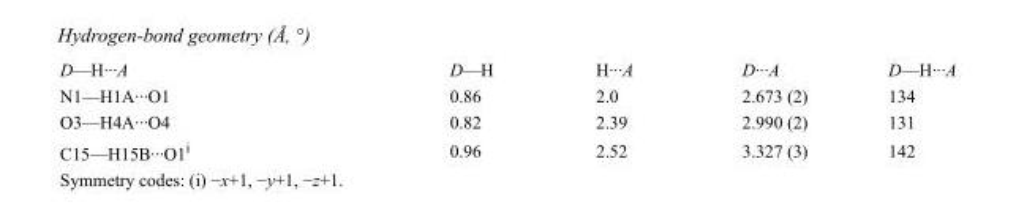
<table><tbody><tr><td>D—H···A</td><td>D—H</td><td>H···A</td><td>D···A</td><td>D—H···A</td></tr><tr><td>N1—H1A···O1</td><td>0.86</td><td>2.0</td><td>2.673 (2)</td><td>134</td></tr><tr><td>O3—H4A···O4</td><td>0.82</td><td>2.39</td><td>2.990 (2)</td><td>131</td></tr><tr><td>C15—H15B···O1<sup>i</sup></td><td>0.96</td><td>2.52</td><td>3.327 (3)</td><td>142</td></tr></tbody></table>